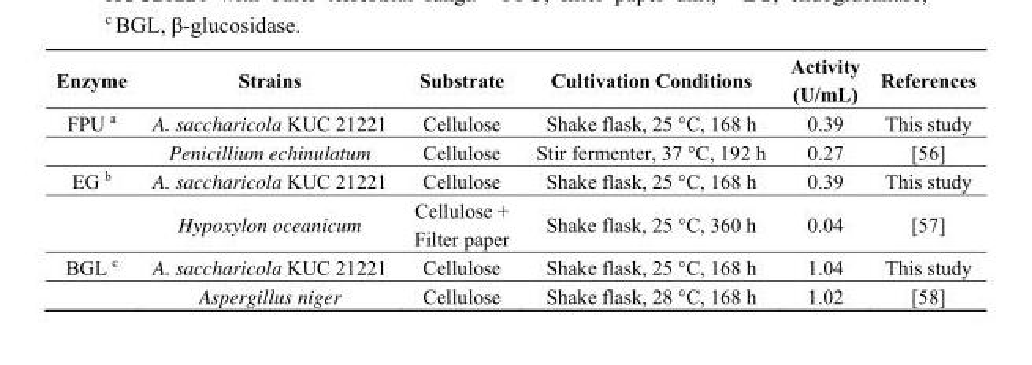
<table><thead><tr><td>Enzyme</td><td>Strains</td><td>Substrate</td><td>Cultivation Conditions</td><td>Activity (U/mL)</td><td>References</td></tr></thead><tbody><tr><td rowspan="2">FPU <sup>a</sup></td><td>A. saccharicola KUC 21221</td><td>Cellulose</td><td>Shake flask, 25 °C, 168 h</td><td>0.39</td><td>This study</td></tr><tr><td>Penicillium echinulatum</td><td>Cellulose</td><td>Stir fermenter, 37 °C, 192 h</td><td>0.27</td><td>[56]</td></tr><tr><td rowspan="2">EG <sup>b</sup></td><td>A. saccharicola KUC 21221</td><td>Cellulose</td><td>Shake flask, 25 °C, 168 h</td><td>0.39</td><td>This study</td></tr><tr><td>Hypoxylon oceanicum</td><td>Cellulose + Filter paper</td><td>Shake flask, 25 °C, 360 h</td><td>0.04</td><td>[57]</td></tr><tr><td rowspan="2">BGL <sup>c</sup></td><td>A. saccharicola KUC 21221</td><td>Cellulose</td><td>Shake flask, 25 °C, 168 h</td><td>1.04</td><td>This study</td></tr><tr><td>Aspergillus niger</td><td>Cellulose</td><td>Shake flask, 28 °C, 168 h</td><td>1.02</td><td>[58]</td></tr></tbody></table>